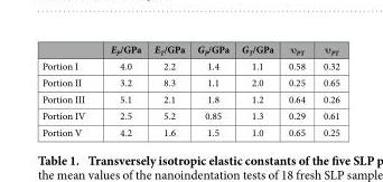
<table><thead><tr><td></td><td>E<sub>P</sub>/GPa</td><td>E<sub>T</sub>/GPa</td><td>G<sub>P</sub>/GPa</td><td>G<sub>T</sub>/GPa</td><td>υ<sub>PT</sub></td><td>υ<sub>PT</sub></td></tr></thead><tbody><tr><td>Portion I</td><td>4.0</td><td>2.2</td><td>1.4</td><td>1.1</td><td>0.58</td><td>0.32</td></tr><tr><td>Portion II</td><td>3.2</td><td>8.3</td><td>1.1</td><td>2.0</td><td>0.25</td><td>0.65</td></tr><tr><td>Portion III</td><td>5.1</td><td>2.1</td><td>1.8</td><td>1.2</td><td>0.64</td><td>0.26</td></tr><tr><td>Portion IV</td><td>2.5</td><td>5.2</td><td>0.85</td><td>1.3</td><td>0.29</td><td>0.61</td></tr><tr><td>Portion V</td><td>4.2</td><td>1.6</td><td>1.5</td><td>1.0</td><td>0.65</td><td>0.25</td></tr></tbody></table>